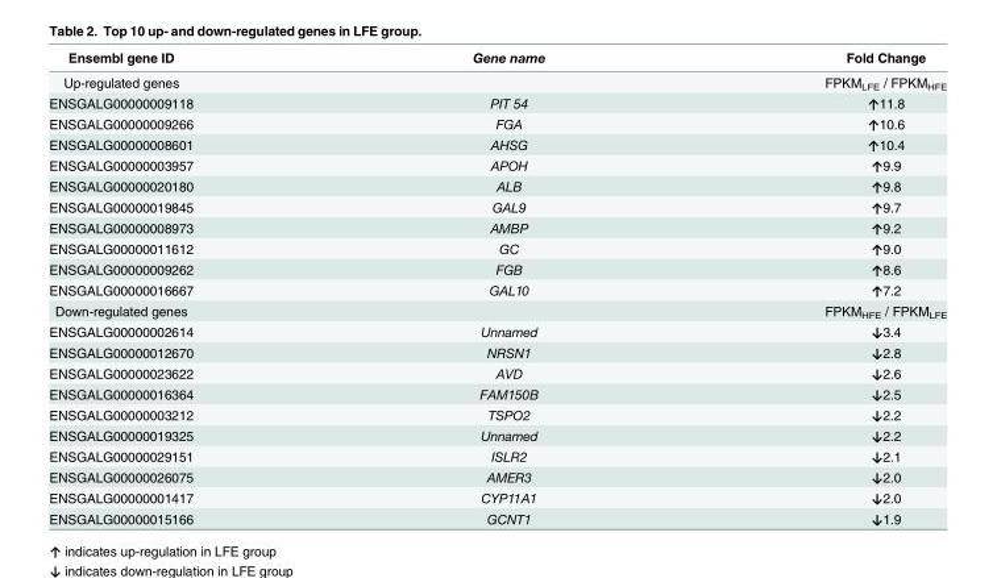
<table><thead><tr><td>Ensembl gene ID</td><td>Gene name</td><td>Fold Change</td></tr></thead><tbody><tr><td>Up-regulated genes</td><td></td><td>FPKM<sub>LFE</sub> / FPKM<sub>HFE</sub></td></tr><tr><td>ENSGALG00000009118</td><td>PIT 54</td><td>↑11.8</td></tr><tr><td>ENSGALG00000009266</td><td>FGA</td><td>↑10.6</td></tr><tr><td>ENSGALG00000008601</td><td>AHSG</td><td>↑10.4</td></tr><tr><td>ENSGALG00000003957</td><td>APOH</td><td>↑9.9</td></tr><tr><td>ENSGALG00000020180</td><td>ALB</td><td>↑9.8</td></tr><tr><td>ENSGALG00000019845</td><td>GAL9</td><td>↑9.7</td></tr><tr><td>ENSGALG00000008973</td><td>AMBP</td><td>↑9.2</td></tr><tr><td>ENSGALG00000011612</td><td>GC</td><td>↑9.0</td></tr><tr><td>ENSGALG00000009262</td><td>FGB</td><td>↑8.6</td></tr><tr><td>ENSGALG00000016667</td><td>GAL10</td><td>↑7.2</td></tr><tr><td>Down-regulated genes</td><td></td><td>FPKM<sub>HFE</sub> / FPKM<sub>LFE</sub></td></tr><tr><td>ENSGALG00000002614</td><td>Unnamed</td><td>↓3.4</td></tr><tr><td>ENSGALG00000012670</td><td>NRSN1</td><td>↓2.8</td></tr><tr><td>ENSGALG00000023622</td><td>AVD</td><td>↓2.6</td></tr><tr><td>ENSGALG00000016364</td><td>FAM150B</td><td>↓2.5</td></tr><tr><td>ENSGALG00000003212</td><td>TSPO2</td><td>↓2.2</td></tr><tr><td>ENSGALG00000019325</td><td>Unnamed</td><td>↓2.2</td></tr><tr><td>ENSGALG00000029151</td><td>ISLR2</td><td>↓2.1</td></tr><tr><td>ENSGALG00000026075</td><td>AMER3</td><td>↓2.0</td></tr><tr><td>ENSGALG00000001417</td><td>CYP11A1</td><td>↓2.0</td></tr><tr><td>ENSGALG00000015166</td><td>GCNT1</td><td>↓1.9</td></tr></tbody></table>